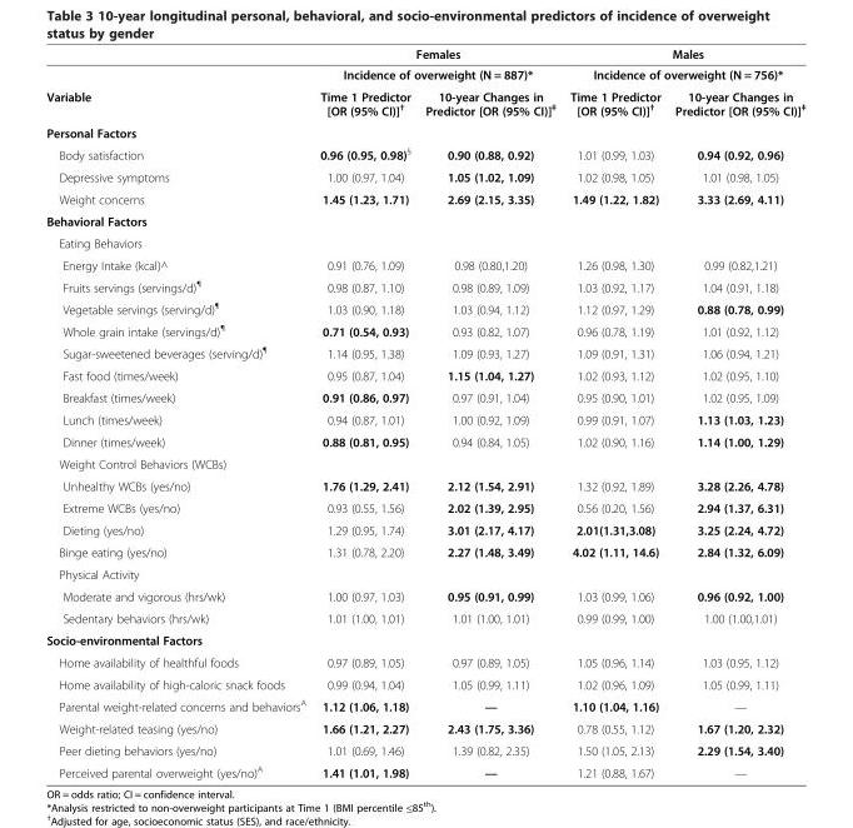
<table><thead><tr><td rowspan="3">Variable</td><td rowspan="2" colspan="2">Females Incidence of overweight (N = 887)*</td><td rowspan="2" colspan="2">Males Incidence of overweight (N = 756)*</td></tr><tr></tr><tr><td>Time 1 Predictor [OR (95% CI)]<sup>†</sup></td><td>10-year Changes in Predictor [OR (95% CI)]<sup>‡</sup></td><td>Time 1 Predictor [OR (95% CI)]<sup>†</sup></td><td>10-year Changes in Predictor [OR (95% CI)]<sup>‡</sup></td></tr></thead><tbody><tr><td colspan="5">Personal Factors</td></tr><tr><td>Body satisfaction</td><td>0.96 (0.95, 0.98)<sup>§</sup></td><td>0.90 (0.88, 0.92)</td><td>1.01 (0.99, 1.03)</td><td>0.94 (0.92, 0.96)</td></tr><tr><td>Depressive symptoms</td><td>1.00 (0.97, 1.04)</td><td>1.05 (1.02, 1.09)</td><td>1.02 (0.98, 1.05)</td><td>1.01 (0.98, 1.05)</td></tr><tr><td>Weight concerns</td><td>1.45 (1.23, 1.71)</td><td>2.69 (2.15, 3.35)</td><td>1.49 (1.22, 1.82)</td><td>3.33 (2.69, 4.11)</td></tr><tr><td colspan="5">Behavioral Factors</td></tr><tr><td colspan="5">Eating Behaviors</td></tr><tr><td>Energy Intake (kcal)^</td><td>0.91 (0.76, 1.09)</td><td>0.98 (0.80,1.20)</td><td>1.26 (0.98, 1.30)</td><td>0.99 (0.82,1.21)</td></tr><tr><td>Fruits servings (servings/d)<sup>¶</sup></td><td>0.98 (0.87, 1.10)</td><td>0.98 (0.89, 1.09)</td><td>1.03 (0.92, 1.17)</td><td>1.04 (0.91, 1.18)</td></tr><tr><td>Vegetable servings (serving/d)<sup>¶</sup></td><td>1.03 (0.90, 1.18)</td><td>1.03 (0.94, 1.12)</td><td>1.12 (0.97, 1.29)</td><td>0.88 (0.78, 0.99)</td></tr><tr><td>Whole grain intake (servings/d)<sup>¶</sup></td><td>0.71 (0.54, 0.93)</td><td>0.93 (0.82, 1.07)</td><td>0.96 (0.78, 1.19)</td><td>1.01 (0.92, 1.12)</td></tr><tr><td>Sugar-sweetened beverages (serving/d)<sup>¶</sup></td><td>1.14 (0.95, 1.38)</td><td>1.09 (0.93, 1.27)</td><td>1.09 (0.91, 1.31)</td><td>1.06 (0.94, 1.21)</td></tr><tr><td>Fast food (times/week)</td><td>0.95 (0.87, 1.04)</td><td>1.15 (1.04, 1.27)</td><td>1.02 (0.93, 1.12)</td><td>1.02 (0.95, 1.10)</td></tr><tr><td>Breakfast (times/week)</td><td>0.91 (0.86, 0.97)</td><td>0.97 (0.91, 1.04)</td><td>0.95 (0.90, 1.01)</td><td>1.02 (0.95, 1.09)</td></tr><tr><td>Lunch (times/week)</td><td>0.94 (0.87, 1.01)</td><td>1.00 (0.92, 1.09)</td><td>0.99 (0.91, 1.07)</td><td>1.13 (1.03, 1.23)</td></tr><tr><td>Dinner (times/week)</td><td>0.88 (0.81, 0.95)</td><td>0.94 (0.84, 1.05)</td><td>1.02 (0.90, 1.16)</td><td>1.14 (1.00, 1.29)</td></tr><tr><td colspan="5">Weight Control Behaviors (WCBs)</td></tr><tr><td>Unhealthy WCBs (yes/no)</td><td>1.76 (1.29, 2.41)</td><td>2.12 (1.54, 2.91)</td><td>1.32 (0.92, 1.89)</td><td>3.28 (2.26, 4.78)</td></tr><tr><td>Extreme WCBs (yes/no)</td><td>0.93 (0.55, 1.56)</td><td>2.02 (1.39, 2.95)</td><td>0.56 (0.20, 1.56)</td><td>2.94 (1.37, 6.31)</td></tr><tr><td>Dieting (yes/no)</td><td>1.29 (0.95, 1.74)</td><td>3.01 (2.17, 4.17)</td><td>2.01(1.31,3.08)</td><td>3.25 (2.24, 4.72)</td></tr><tr><td>Binge eating (yes/no)</td><td>1.31 (0.78, 2.20)</td><td>2.27 (1.48, 3.49)</td><td>4.02 (1.11, 14.6)</td><td>2.84 (1.32, 6.09)</td></tr><tr><td colspan="5">Physical Activity</td></tr><tr><td>Moderate and vigorous (hrs/wk)</td><td>1.00 (0.97, 1.03)</td><td>0.95 (0.91, 0.99)</td><td>1.03 (0.99, 1.06)</td><td>0.96 (0.92, 1.00)</td></tr><tr><td>Sedentary behaviors (hrs/wk)</td><td>1.01 (1.00, 1.01)</td><td>1.01 (1.00, 1.01)</td><td>0.99 (0.99, 1.00)</td><td>1.00 (1.00,1.01)</td></tr><tr><td colspan="5">Socio-environmental Factors</td></tr><tr><td>Home availability of healthful foods</td><td>0.97 (0.89, 1.05)</td><td>0.97 (0.89, 1.05)</td><td>1.05 (0.96, 1.14)</td><td>1.03 (0.95, 1.12)</td></tr><tr><td>Home availability of high-caloric snack foods</td><td>0.99 (0.94, 1.04)</td><td>1.05 (0.99, 1.11)</td><td>1.02 (0.96, 1.09)</td><td>1.05 (0.99, 1.11)</td></tr><tr><td>Parental weight-related concerns and behaviors<sup>A</sup></td><td>1.12 (1.06, 1.18)</td><td>—</td><td>1.10 (1.04, 1.16)</td><td>—</td></tr><tr><td>Weight-related teasing (yes/no)</td><td>1.66 (1.21, 2.27)</td><td>2.43 (1.75, 3.36)</td><td>0.78 (0.55, 1.12)</td><td>1.67 (1.20, 2.32)</td></tr><tr><td>Peer dieting behaviors (yes/no)</td><td>1.01 (0.69, 1.46)</td><td>1.39 (0.82, 2.35)</td><td>1.50 (1.05, 2.13)</td><td>2.29 (1.54, 3.40)</td></tr><tr><td>Perceived parental overweight (yes/no)<sup>A</sup></td><td>1.41 (1.01, 1.98)</td><td>—</td><td>1.21 (0.88, 1.67)</td><td>—</td></tr></tbody></table>